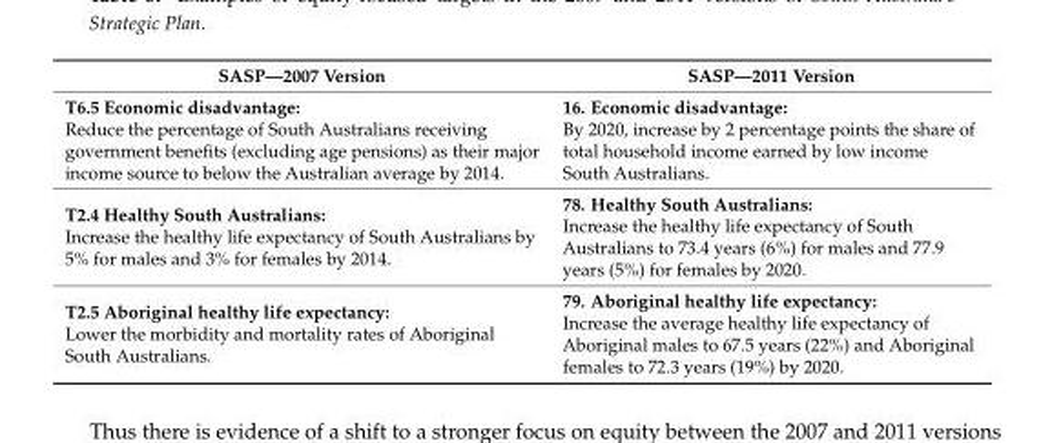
<table><thead><tr><td>SASP—2007 Version</td><td>SASP—2011 Version</td></tr></thead><tbody><tr><td>T6.5 Economic disadvantage: Reduce the percentage of South Australians receiving government benefits (excluding age pensions) as their major income source to below the Australian average by 2014.</td><td>16. Economic disadvantage: By 2020, increase by 2 percentage points the share of total household income earned by low income South Australians.</td></tr><tr><td>T2.4 Healthy South Australians: Increase the healthy life expectancy of South Australians by 5% for males and 3% for females by 2014.</td><td>78. Healthy South Australians: Increase the healthy life expectancy of South Australians to 73.4 years (6%) for males and 77.9 years (5%) for females by 2020.</td></tr><tr><td>T2.5 Aboriginal healthy life expectancy: Lower the morbidity and mortality rates of Aboriginal South Australians.</td><td>79. Aboriginal healthy life expectancy: Increase the average healthy life expectancy of Aboriginal males to 67.5 years (22%) and Aboriginal females to 72.3 years (19%) by 2020.</td></tr></tbody></table>